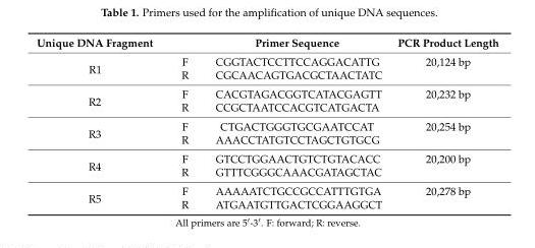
<table><thead><tr><td>Unique DNA Fragment</td><td></td><td>Primer Sequence</td><td>PCR Product Length</td></tr></thead><tbody><tr><td rowspan="2">R1</td><td>F</td><td>CGGTACTCCTTCCAGGACATTG</td><td>20,124 bp</td></tr><tr><td>R</td><td>CGCAACAGTGACGCTAACTATC</td><td></td></tr><tr><td rowspan="2">R2</td><td>F</td><td>CACGTAGACGGTCATACGAGTT</td><td>20,232 bp</td></tr><tr><td>R</td><td>CCGCTAATCCACGTCATGACTA</td><td></td></tr><tr><td rowspan="2">R3</td><td>F</td><td>CTGACTGGGTGCGAATCCAT</td><td>20,254 bp</td></tr><tr><td>R</td><td>AAACCTATGTCCTAGCTGTGCG</td><td></td></tr><tr><td rowspan="2">R4</td><td>F</td><td>GTCCTGGAACTGTCTGTACACC</td><td>20,200 bp</td></tr><tr><td>R</td><td>GTTTCGGGCAAACGATAGCTAC</td><td></td></tr><tr><td rowspan="2">R5</td><td>F</td><td>AAAAATCTGCCGCCATTTGTGA</td><td>20,278 bp</td></tr><tr><td>R</td><td>ATGAATGTTGACTCGGAAGGCT</td><td></td></tr></tbody></table>